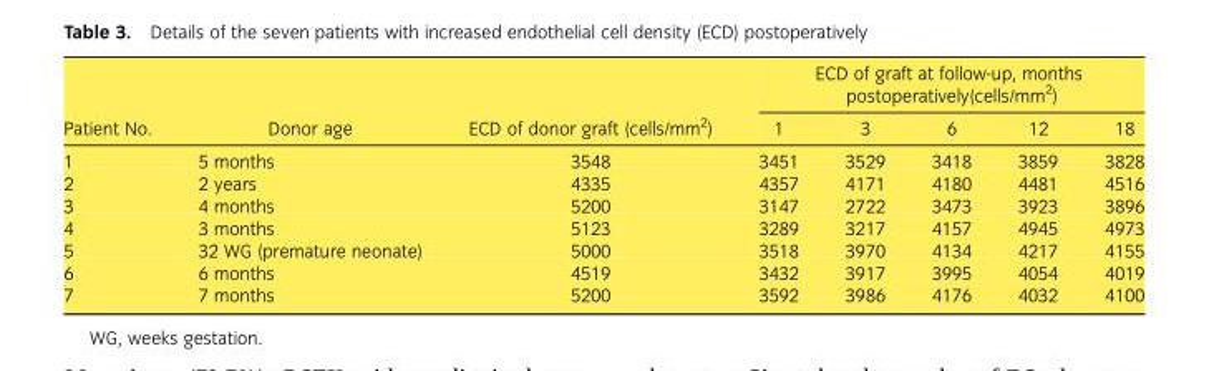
<table><thead><tr><td rowspan="2">Patient No.</td><td rowspan="2">Donor age</td><td rowspan="2">ECD of donor graft (cells/mm<sup>2</sup>)</td><td colspan="5">ECD of graft at follow-up, months postoperatively(cells/mm<sup>2</sup>)</td></tr><tr><td>1</td><td>3</td><td>6</td><td>12</td><td>18</td></tr></thead><tbody><tr><td>1</td><td>5 months</td><td>3548</td><td>3451</td><td>3529</td><td>3418</td><td>3859</td><td>3828</td></tr><tr><td>2</td><td>2 years</td><td>4335</td><td>4357</td><td>4171</td><td>4180</td><td>4481</td><td>4516</td></tr><tr><td>3</td><td>4 months</td><td>5200</td><td>3147</td><td>2722</td><td>3473</td><td>3923</td><td>3896</td></tr><tr><td>4</td><td>3 months</td><td>5123</td><td>3289</td><td>3217</td><td>4157</td><td>4945</td><td>4973</td></tr><tr><td>5</td><td>32 WG (premature neonate)</td><td>5000</td><td>3518</td><td>3970</td><td>4134</td><td>4217</td><td>4155</td></tr><tr><td>6</td><td>6 months</td><td>4519</td><td>3432</td><td>3917</td><td>3995</td><td>4054</td><td>4019</td></tr><tr><td>7</td><td>7 months</td><td>5200</td><td>3592</td><td>3986</td><td>4176</td><td>4032</td><td>4100</td></tr></tbody></table>